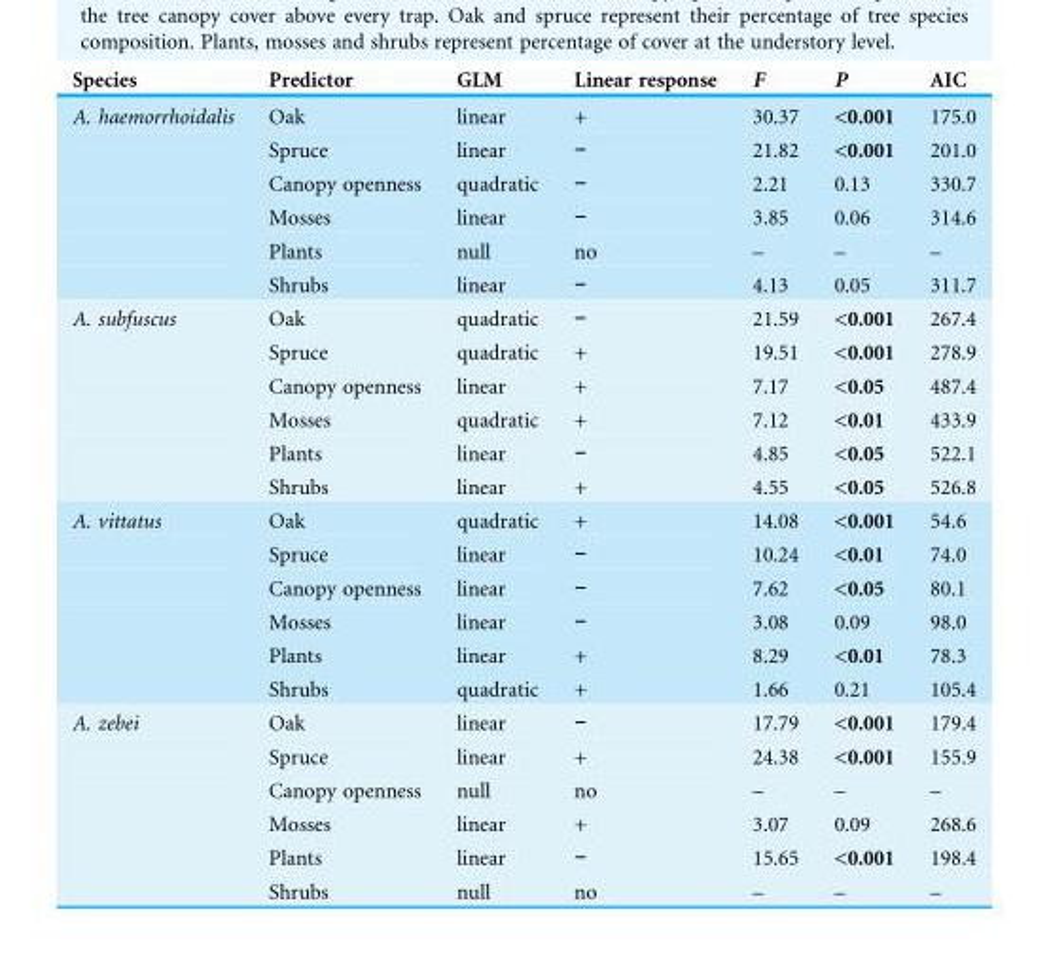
<table><thead><tr><td>Species</td><td>Predictor</td><td>GLM</td><td>Linear response</td><td>F</td><td>P</td><td>AIC</td></tr></thead><tbody><tr><td rowspan="6">A. haemorrhoidalis</td><td>Oak</td><td>linear</td><td>+</td><td>30.37</td><td>&lt;0.001</td><td>175.0</td></tr><tr><td>Spruce</td><td>linear</td><td>−</td><td>21.82</td><td>&lt;0.001</td><td>201.0</td></tr><tr><td>Canopy openness</td><td>quadratic</td><td>−</td><td>2.21</td><td>0.13</td><td>330.7</td></tr><tr><td>Mosses</td><td>linear</td><td>−</td><td>3.85</td><td>0.06</td><td>314.6</td></tr><tr><td>Plants</td><td>null</td><td>no</td><td>–</td><td>–</td><td>–</td></tr><tr><td>Shrubs</td><td>linear</td><td>−</td><td>4.13</td><td>0.05</td><td>311.7</td></tr><tr><td rowspan="6">A. subfuscus</td><td>Oak</td><td>quadratic</td><td>−</td><td>21.59</td><td>&lt;0.001</td><td>267.4</td></tr><tr><td>Spruce</td><td>quadratic</td><td>+</td><td>19.51</td><td>&lt;0.001</td><td>278.9</td></tr><tr><td>Canopy openness</td><td>linear</td><td>+</td><td>7.17</td><td>&lt;0.05</td><td>487.4</td></tr><tr><td>Mosses</td><td>quadratic</td><td>+</td><td>7.12</td><td>&lt;0.01</td><td>433.9</td></tr><tr><td>Plants</td><td>linear</td><td>−</td><td>4.85</td><td>&lt;0.05</td><td>522.1</td></tr><tr><td>Shrubs</td><td>linear</td><td>+</td><td>4.55</td><td>&lt;0.05</td><td>526.8</td></tr><tr><td rowspan="6">A. vittatus</td><td>Oak</td><td>quadratic</td><td>+</td><td>14.08</td><td>&lt;0.001</td><td>54.6</td></tr><tr><td>Spruce</td><td>linear</td><td>−</td><td>10.24</td><td>&lt;0.01</td><td>74.0</td></tr><tr><td>Canopy openness</td><td>linear</td><td>−</td><td>7.62</td><td>&lt;0.05</td><td>80.1</td></tr><tr><td>Mosses</td><td>linear</td><td>−</td><td>3.08</td><td>0.09</td><td>98.0</td></tr><tr><td>Plants</td><td>linear</td><td>+</td><td>8.29</td><td>&lt;0.01</td><td>78.3</td></tr><tr><td>Shrubs</td><td>quadratic</td><td>+</td><td>1.66</td><td>0.21</td><td>105.4</td></tr><tr><td rowspan="6">A. zebei</td><td>Oak</td><td>linear</td><td>−</td><td>17.79</td><td>&lt;0.001</td><td>179.4</td></tr><tr><td>Spruce</td><td>linear</td><td>+</td><td>24.38</td><td>&lt;0.001</td><td>155.9</td></tr><tr><td>Canopy openness</td><td>null</td><td>no</td><td>–</td><td>–</td><td>–</td></tr><tr><td>Mosses</td><td>linear</td><td>+</td><td>3.07</td><td>0.09</td><td>268.6</td></tr><tr><td>Plants</td><td>linear</td><td>−</td><td>15.65</td><td>&lt;0.001</td><td>198.4</td></tr><tr><td>Shrubs</td><td>null</td><td>no</td><td>–</td><td>–</td><td>–</td></tr></tbody></table>